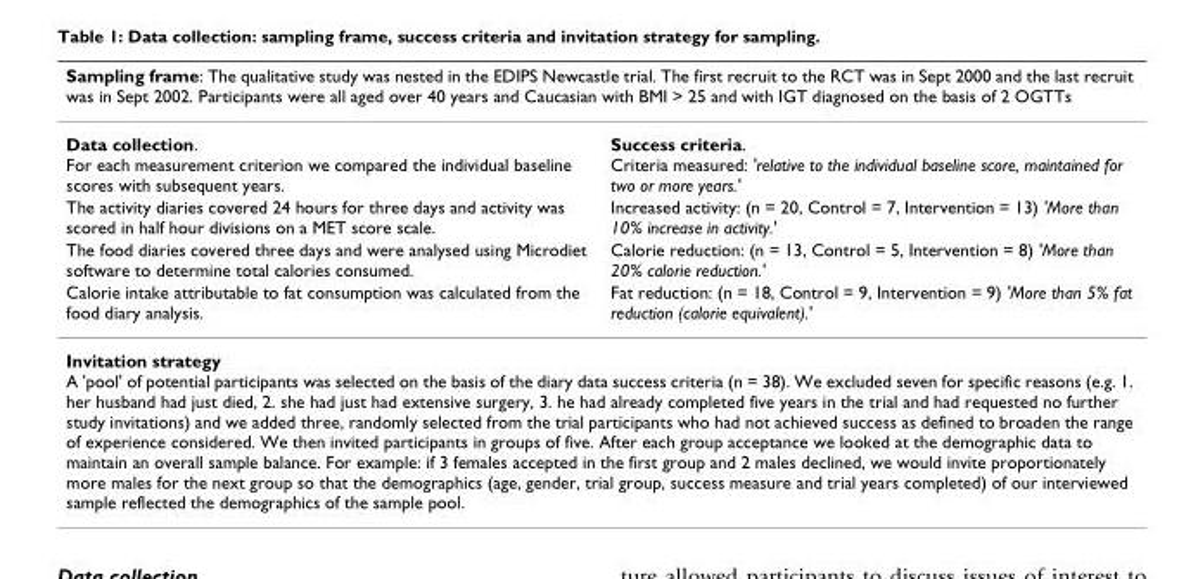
<table><thead><tr><td colspan="2">Sampling frame: The qualitative study was nested in the EDIPS Newcastle trial. The first recruit to the RCT was in Sept 2000 and the last recruit was in Sept 2002. Participants were all aged over 40 years and Caucasian with BMI &gt; 25 and with IGT diagnosed on the basis of 2 OGTTs</td></tr><tr><td>Data collection. For each measurement criterion we compared the individual baseline scores with subsequent years.</td><td>Success criteria. Criteria measured: &#x27;relative to the individual baseline score, maintained for two or more years.&#x27;</td></tr></thead><tbody><tr><td>The activity diaries covered 24 hours for three days and activity was scored in half hour divisions on a MET score scale.</td><td>Increased activity: (n = 20, Control = 7, Intervention = 13) &#x27;More than 10% increase in activity.&#x27;</td></tr><tr><td>The food diaries covered three days and were analysed using Microdiet software to determine total calories consumed.</td><td>Calorie reduction: (n = 13, Control = 5, Intervention = 8) &#x27;More than 20% calorie reduction.&#x27;</td></tr><tr><td>Calorie intake attributable to fat consumption was calculated from the food diary analysis.</td><td>Fat reduction: (n = 18, Control = 9, Intervention = 9) &#x27;More than 5% fat reduction (calorie equivalent).&#x27;</td></tr><tr><td colspan="2">Invitation strategy A &#x27;pool&#x27; of potential participants was selected on the basis of the diary data success criteria (n = 38). We excluded seven for specific reasons (e.g. 1. her husband had just died, 2. she had just had extensive surgery, 3. he had already completed five years in the trial and had requested no further study invitations) and we added three, randomly selected from the trial participants who had not achieved success as defined to broaden the range of experience considered. We then invited participants in groups of five. After each group acceptance we looked at the demographic data to maintain an overall sample balance. For example: if 3 females accepted in the first group and 2 males declined, we would invite proportionately more males for the next group so that the demographics (age, gender, trial group, success measure and trial years completed) of our interviewed sample reflected the demographics of the sample pool.</td></tr></tbody></table>